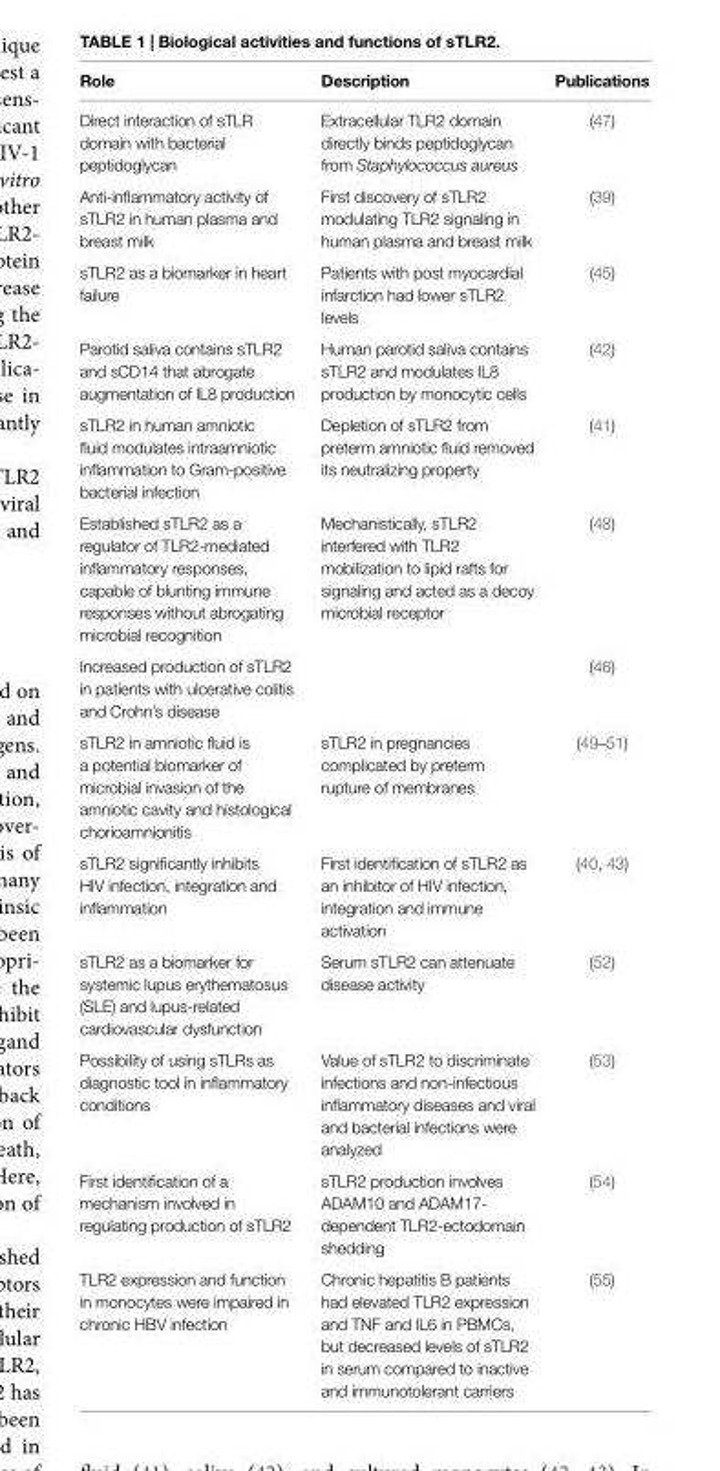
<table><thead><tr><td>Role</td><td>Description</td><td>Publications</td></tr></thead><tbody><tr><td>Direct interaction of sTLR domain with bacterial peptidoglycan</td><td>Extracellular TLR2 domain directly binds peptidoglycan from Staphylococcus aureus</td><td>(47)</td></tr><tr><td>Anti-inflammatory activity of sTLR2 in human plasma and breast milk</td><td>First discovery of sTLR2 modulating TLR2 signaling in human plasma and breast milk</td><td>(39)</td></tr><tr><td>sTLR2 as a biomarker in heart failure</td><td>Patients with post myocardial infarction had lower sTLR2 levels</td><td>(45)</td></tr><tr><td>Parotid saliva contains sTLR2 and sCD14 that abrogate augmentation of IL8 production</td><td>Human parotid saliva contains sTLR2 and modulates IL8 production by monocytic cells</td><td>(42)</td></tr><tr><td>sTLR2 in human amniotic fluid modulates intraamniotic inflammation to Gram-positive bacterial infection</td><td>Depletion of sTLR2 from preterm amniotic fluid removed its neutralizing property</td><td>(41)</td></tr><tr><td>Established sTLR2 as a regulator of TLR2-mediated inflammatory responses, capable of blunting immune responses without abrogating microbial recognition</td><td>Mechanistically, sTLR2 interfered with TLR2 mobilization to lipid rafts for signaling and acted as a decoy microbial receptor</td><td>(48)</td></tr><tr><td>Increased production of sTLR2 in patients with ulcerative colitis and Crohn’s disease</td><td></td><td>(46)</td></tr><tr><td>sTLR2 in amniotic fluid is a potential biomarker of microbial invasion of the amniotic cavity and histological chorioamnionitis</td><td>sTLR2 in pregnancies complicated by preterm rupture of membranes</td><td>(49–51)</td></tr><tr><td>sTLR2 significantly inhibits HIV infection, integration and inflammation</td><td>First identification of sTLR2 as an inhibitor of HIV infection, integration and immune activation</td><td>(40, 43)</td></tr><tr><td>sTLR2 as a biomarker for systemic lupus erythematosus (SLE) and lupus-related cardiovascular dysfunction</td><td>Serum sTLR2 can attenuate disease activity</td><td>(52)</td></tr><tr><td>Possibility of using sTLRs as diagnostic tool in inflammatory conditions</td><td>Value of sTLR2 to discriminate infections and non-infectious inflammatory diseases and viral and bacterial infections were analyzed</td><td>(53)</td></tr><tr><td>First identification of a mechanism involved in regulating production of sTLR2</td><td>sTLR2 production involves ADAM10 and ADAM17- dependent TLR2-ectodomain shedding</td><td>(54)</td></tr><tr><td>TLR2 expression and function in monocytes were impaired in chronic HBV infection</td><td>Chronic hepatitis B patients had elevated TLR2 expression and TNF and IL6 in PBMCs, but decreased levels of sTLR2 in serum compared to inactive and immunotolerant carriers</td><td>(55)</td></tr></tbody></table>